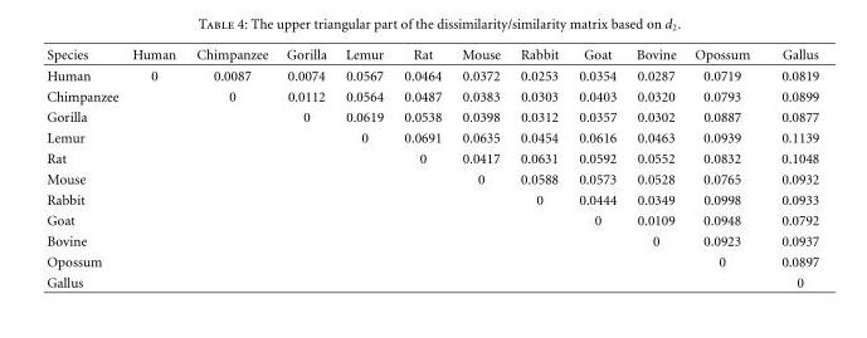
<table><thead><tr><td>Species</td><td>Human</td><td>Chimpanzee</td><td>Gorilla</td><td>Lemur</td><td>Rat</td><td>Mouse</td><td>Rabbit</td><td>Goat</td><td>Bovine</td><td>Opossum</td><td>Gallus</td></tr></thead><tbody><tr><td>Human</td><td>0</td><td>0.0087</td><td>0.0074</td><td>0.0567</td><td>0.0464</td><td>0.0372</td><td>0.0253</td><td>0.0354</td><td>0.0287</td><td>0.0719</td><td>0.0819</td></tr><tr><td>Chimpanzee</td><td></td><td>0</td><td>0.0112</td><td>0.0564</td><td>0.0487</td><td>0.0383</td><td>0.0303</td><td>0.0403</td><td>0.0320</td><td>0.0793</td><td>0.0899</td></tr><tr><td>Gorilla</td><td></td><td></td><td>0</td><td>0.0619</td><td>0.0538</td><td>0.0398</td><td>0.0312</td><td>0.0357</td><td>0.0302</td><td>0.0887</td><td>0.0877</td></tr><tr><td>Lemur</td><td></td><td></td><td></td><td>0</td><td>0.0691</td><td>0.0635</td><td>0.0454</td><td>0.0616</td><td>0.0463</td><td>0.0939</td><td>0.1139</td></tr><tr><td>Rat</td><td></td><td></td><td></td><td></td><td>0</td><td>0.0417</td><td>0.0631</td><td>0.0592</td><td>0.0552</td><td>0.0832</td><td>0.1048</td></tr><tr><td>Mouse</td><td></td><td></td><td></td><td></td><td></td><td>0</td><td>0.0588</td><td>0.0573</td><td>0.0528</td><td>0.0765</td><td>0.0932</td></tr><tr><td>Rabbit</td><td></td><td></td><td></td><td></td><td></td><td></td><td>0</td><td>0.0444</td><td>0.0349</td><td>0.0998</td><td>0.0933</td></tr><tr><td>Goat</td><td></td><td></td><td></td><td></td><td></td><td></td><td></td><td>0</td><td>0.0109</td><td>0.0948</td><td>0.0792</td></tr><tr><td>Bovine</td><td></td><td></td><td></td><td></td><td></td><td></td><td></td><td></td><td>0</td><td>0.0923</td><td>0.0937</td></tr><tr><td>Opossum</td><td></td><td></td><td></td><td></td><td></td><td></td><td></td><td></td><td></td><td>0</td><td>0.0897</td></tr><tr><td>Gallus</td><td></td><td></td><td></td><td></td><td></td><td></td><td></td><td></td><td></td><td></td><td>0</td></tr></tbody></table>